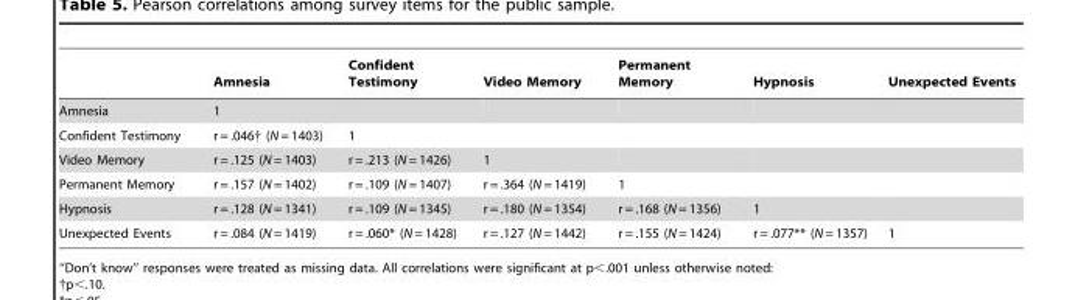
<table><thead><tr><td></td><td>Amnesia</td><td>Confident Testimony</td><td>Video Memory</td><td>Permanent Memory</td><td>Hypnosis</td><td>Unexpected Events</td></tr></thead><tbody><tr><td>Amnesia</td><td>1</td><td></td><td></td><td></td><td></td><td></td></tr><tr><td>Confident Testimony</td><td>r = .046† (N = 1403)</td><td>1</td><td></td><td></td><td></td><td></td></tr><tr><td>Video Memory</td><td>r = .125 (N = 1403)</td><td>r = .213 (N = 1426)</td><td>1</td><td></td><td></td><td></td></tr><tr><td>Permanent Memory</td><td>r = .157 (N = 1402)</td><td>r = .109 (N = 1407)</td><td>r = .364 (N = 1419)</td><td>1</td><td></td><td></td></tr><tr><td>Hypnosis</td><td>r = .128 (N = 1341)</td><td>r = .109 (N = 1345)</td><td>r = .180 (N = 1354)</td><td>r = .168 (N = 1356)</td><td>1</td><td></td></tr><tr><td>Unexpected Events</td><td>r = .084 (N = 1419)</td><td>r = .060* (N = 1428)</td><td>r = .127 (N = 1442)</td><td>r = .155 (N = 1424)</td><td>r = .077** (N = 1357)</td><td>1</td></tr></tbody></table>